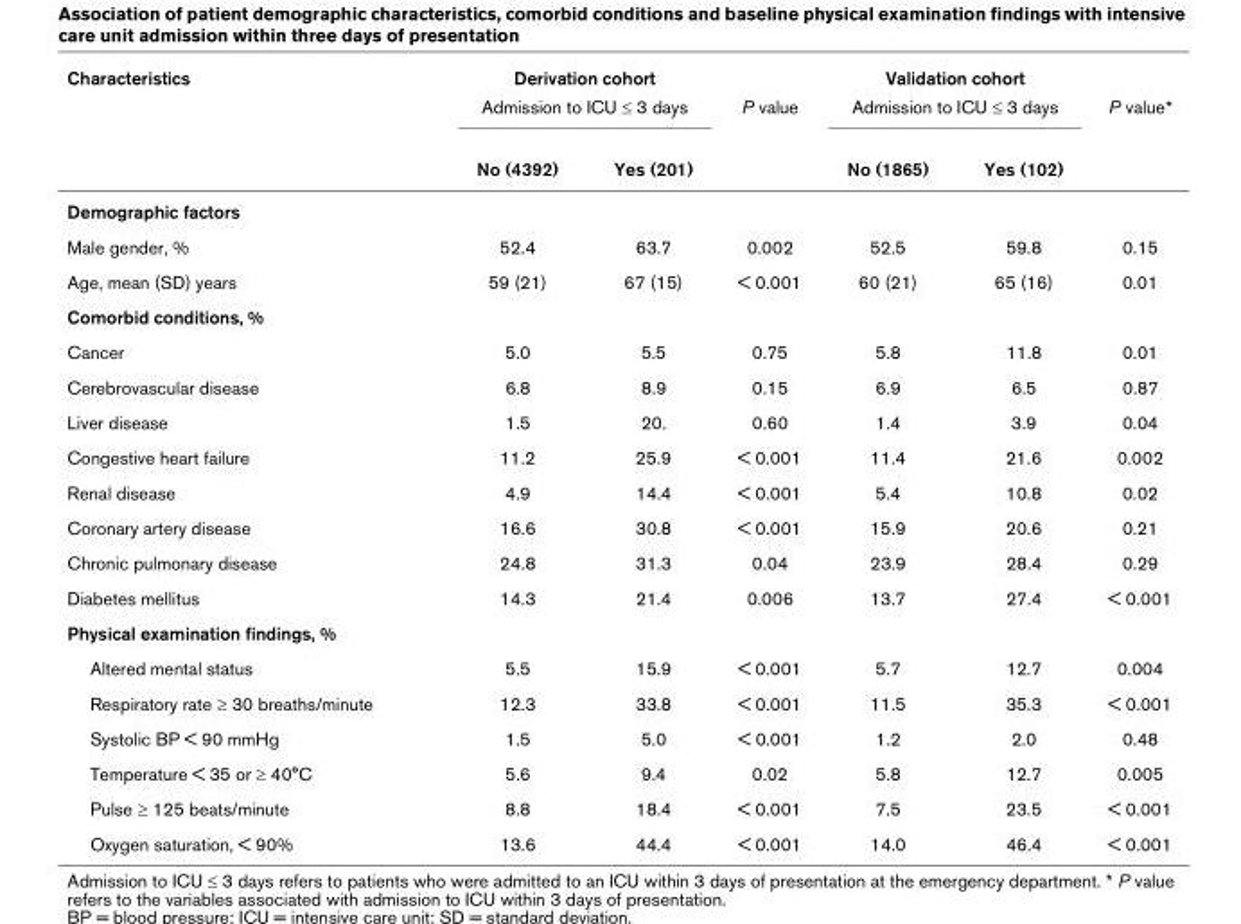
<table><thead><tr><td rowspan="3">Characteristics</td><td rowspan="2" colspan="2">Derivation cohort Admission to ICU ≤ 3 days</td><td rowspan="3">P value</td><td rowspan="2" colspan="2">Validation cohort Admission to ICU ≤ 3 days</td><td rowspan="3">P value*</td></tr><tr></tr><tr><td>No (4392)</td><td>Yes (201)</td><td>No (1865)</td><td>Yes (102)</td></tr></thead><tbody><tr><td colspan="7">Demographic factors</td></tr><tr><td>Male gender, %</td><td>52.4</td><td>63.7</td><td>0.002</td><td>52.5</td><td>59.8</td><td>0.15</td></tr><tr><td>Age, mean (SD) years</td><td>59 (21)</td><td>67 (15)</td><td>&lt; 0.001</td><td>60 (21)</td><td>65 (16)</td><td>0.01</td></tr><tr><td colspan="7">Comorbid conditions, %</td></tr><tr><td>Cancer</td><td>5.0</td><td>5.5</td><td>0.75</td><td>5.8</td><td>11.8</td><td>0.01</td></tr><tr><td>Cerebrovascular disease</td><td>6.8</td><td>8.9</td><td>0.15</td><td>6.9</td><td>6.5</td><td>0.87</td></tr><tr><td>Liver disease</td><td>1.5</td><td>20.</td><td>0.60</td><td>1.4</td><td>3.9</td><td>0.04</td></tr><tr><td>Congestive heart failure</td><td>11.2</td><td>25.9</td><td>&lt; 0.001</td><td>11.4</td><td>21.6</td><td>0.002</td></tr><tr><td>Renal disease</td><td>4.9</td><td>14.4</td><td>&lt; 0.001</td><td>5.4</td><td>10.8</td><td>0.02</td></tr><tr><td>Coronary artery disease</td><td>16.6</td><td>30.8</td><td>&lt; 0.001</td><td>15.9</td><td>20.6</td><td>0.21</td></tr><tr><td>Chronic pulmonary disease</td><td>24.8</td><td>31.3</td><td>0.04</td><td>23.9</td><td>28.4</td><td>0.29</td></tr><tr><td>Diabetes mellitus</td><td>14.3</td><td>21.4</td><td>0.006</td><td>13.7</td><td>27.4</td><td>&lt; 0.001</td></tr><tr><td colspan="7">Physical examination findings, %</td></tr><tr><td>Altered mental status</td><td>5.5</td><td>15.9</td><td>&lt; 0.001</td><td>5.7</td><td>12.7</td><td>0.004</td></tr><tr><td>Respiratory rate ≥ 30 breaths/minute</td><td>12.3</td><td>33.8</td><td>&lt; 0.001</td><td>11.5</td><td>35.3</td><td>&lt; 0.001</td></tr><tr><td>Systolic BP &lt; 90 mmHg</td><td>1.5</td><td>5.0</td><td>&lt; 0.001</td><td>1.2</td><td>2.0</td><td>0.48</td></tr><tr><td>Temperature &lt; 35 or ≥ 40°C</td><td>5.6</td><td>9.4</td><td>0.02</td><td>5.8</td><td>12.7</td><td>0.005</td></tr><tr><td>Pulse ≥ 125 beats/minute</td><td>8.8</td><td>18.4</td><td>&lt; 0.001</td><td>7.5</td><td>23.5</td><td>&lt; 0.001</td></tr><tr><td>Oxygen saturation, &lt; 90%</td><td>13.6</td><td>44.4</td><td>&lt; 0.001</td><td>14.0</td><td>46.4</td><td>&lt; 0.001</td></tr></tbody></table>